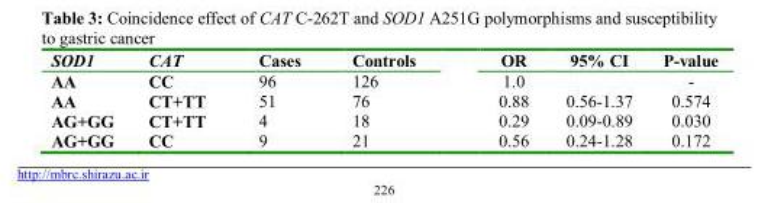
<table><thead><tr><td rowspan="2">SOD1 AA</td><td rowspan="2">CAT CC</td><td rowspan="2">Cases 96</td><td rowspan="2">Controls 126</td><td rowspan="2">OR 1.0</td><td rowspan="2">95% CI</td><td rowspan="2">P-value -</td></tr><tr></tr></thead><tbody><tr><td>AA</td><td>CT+TT</td><td>51</td><td>76</td><td>0.88</td><td>0.56-1.37</td><td>0.574</td></tr><tr><td>AG+GG</td><td>CT+TT</td><td>4</td><td>18</td><td>0.29</td><td>0.09-0.89</td><td>0.030</td></tr><tr><td>AG+GG</td><td>CC</td><td>9</td><td>21</td><td>0.56</td><td>0.24-1.28</td><td>0.172</td></tr></tbody></table>